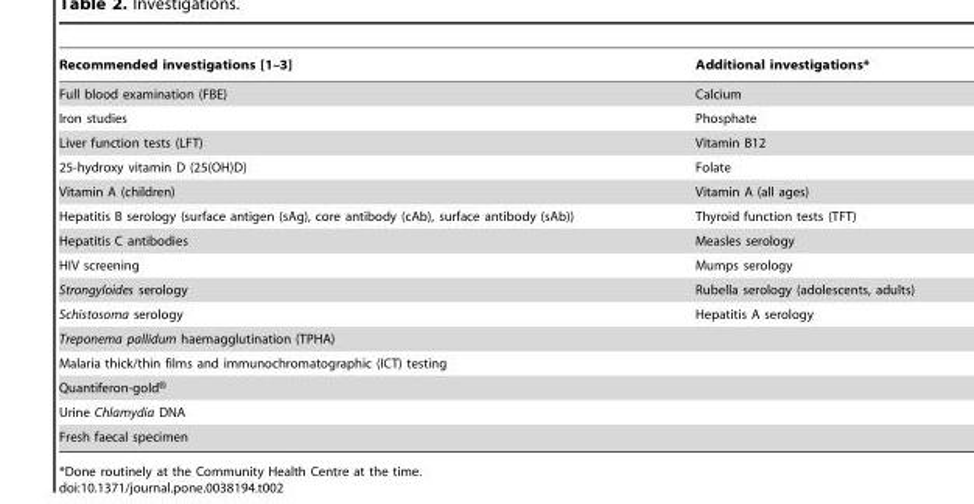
<table><thead><tr><td>Recommended investigations [1–3]</td><td>Additional investigations*</td></tr></thead><tbody><tr><td>Full blood examination (FBE)</td><td>Calcium</td></tr><tr><td>Iron studies</td><td>Phosphate</td></tr><tr><td>Liver function tests (LFT)</td><td>Vitamin B12</td></tr><tr><td>25-hydroxy vitamin D (25(OH)D)</td><td>Folate</td></tr><tr><td>Vitamin A (children)</td><td>Vitamin A (all ages)</td></tr><tr><td>Hepatitis B serology (surface antigen (sAg), core antibody (cAb), surface antibody (sAb))</td><td>Thyroid function tests (TFT)</td></tr><tr><td>Hepatitis C antibodies</td><td>Measles serology</td></tr><tr><td>HIV screening</td><td>Mumps serology</td></tr><tr><td>Strongyloides serology</td><td>Rubella serology (adolescents, adults)</td></tr><tr><td>Schistosoma serology</td><td>Hepatitis A serology</td></tr><tr><td colspan="2">Treponema pallidum haemagglutination (TPHA)</td></tr><tr><td colspan="2">Malaria thick/thin films and immunochromatographic (ICT) testing</td></tr><tr><td colspan="2">Quantiferon-gold®</td></tr><tr><td colspan="2">Urine Chlamydia DNA</td></tr><tr><td>Fresh faecal specimen</td><td></td></tr></tbody></table>